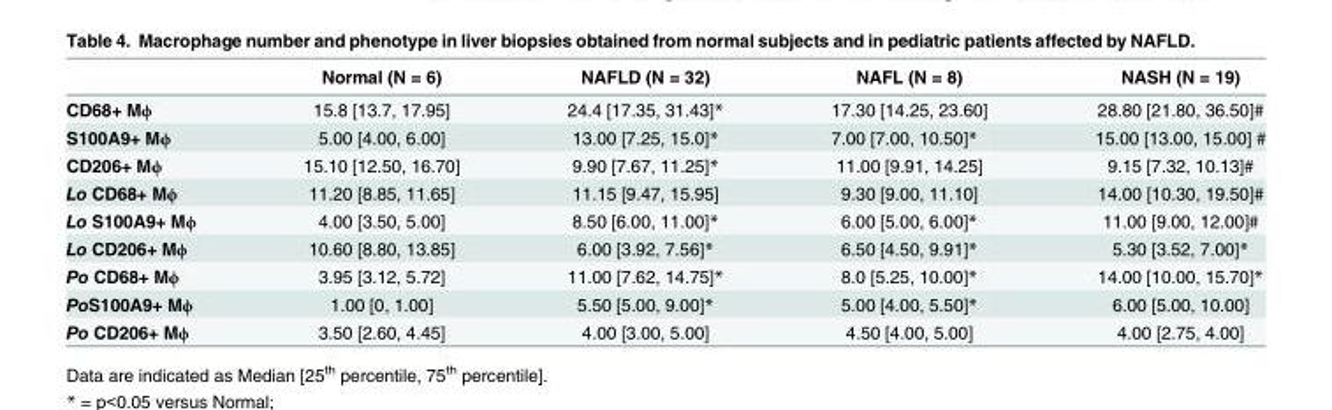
<table><thead><tr><td></td><td>Normal (N = 6)</td><td>NAFLD (N = 32)</td><td>NAFL (N = 8)</td><td>NASH (N = 19)</td></tr></thead><tbody><tr><td>CD68+ Mϕ</td><td>15.8 [13.7, 17.95]</td><td>24.4 [17.35, 31.43]*</td><td>17.30 [14.25, 23.60]</td><td>28.80 [21.80, 36.50]#</td></tr><tr><td>S100A9+ Mϕ</td><td>5.00 [4.00, 6.00]</td><td>13.00 [7.25, 15.0]*</td><td>7.00 [7.00, 10.50]*</td><td>15.00 [13.00, 15.00] #</td></tr><tr><td>CD206+ Mϕ</td><td>15.10 [12.50, 16.70]</td><td>9.90 [7.67, 11.25]*</td><td>11.00 [9.91, 14.25]</td><td>9.15 [7.32, 10.13]#</td></tr><tr><td>Lo CD68+ Mϕ</td><td>11.20 [8.85, 11.65]</td><td>11.15 [9.47, 15.95]</td><td>9.30 [9.00, 11.10]</td><td>14.00 [10.30, 19.50]#</td></tr><tr><td>Lo S100A9+ Mϕ</td><td>4.00 [3.50, 5.00]</td><td>8.50 [6.00, 11.00]*</td><td>6.00 [5.00, 6.00]*</td><td>11.00 [9.00, 12.00]#</td></tr><tr><td>Lo CD206+ Mϕ</td><td>10.60 [8.80, 13.85]</td><td>6.00 [3.92, 7.56]*</td><td>6.50 [4.50, 9.91]*</td><td>5.30 [3.52, 7.00]*</td></tr><tr><td>Po CD68+ Mϕ</td><td>3.95 [3.12, 5.72]</td><td>11.00 [7.62, 14.75]*</td><td>8.0 [5.25, 10.00]*</td><td>14.00 [10.00, 15.70]*</td></tr><tr><td>PoS100A9+ Mϕ</td><td>1.00 [0, 1.00]</td><td>5.50 [5.00, 9.00]*</td><td>5.00 [4.00, 5.50]*</td><td>6.00 [5.00, 10.00]</td></tr><tr><td>Po CD206+ Mϕ</td><td>3.50 [2.60, 4.45]</td><td>4.00 [3.00, 5.00]</td><td>4.50 [4.00, 5.00]</td><td>4.00 [2.75, 4.00]</td></tr></tbody></table>